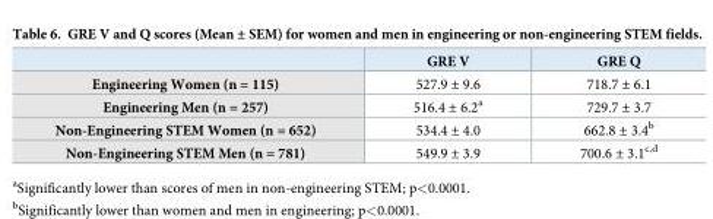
<table><thead><tr><td></td><td>GRE V</td><td>GRE Q</td></tr></thead><tbody><tr><td>Engineering Women (n = 115)</td><td>527.9 ± 9.6</td><td>718.7 ± 6.1</td></tr><tr><td>Engineering Men (n = 257)</td><td>516.4 ± 6.2<sup>a</sup></td><td>729.7 ± 3.7</td></tr><tr><td>Non-Engineering STEM Women (n = 652)</td><td>534.4 ± 4.0</td><td>662.8 ± 3.4<sup>b</sup></td></tr><tr><td>Non-Engineering STEM Men (n = 781)</td><td>549.9 ± 3.9</td><td>700.6 ± 3.1<sup>c,d</sup></td></tr></tbody></table>